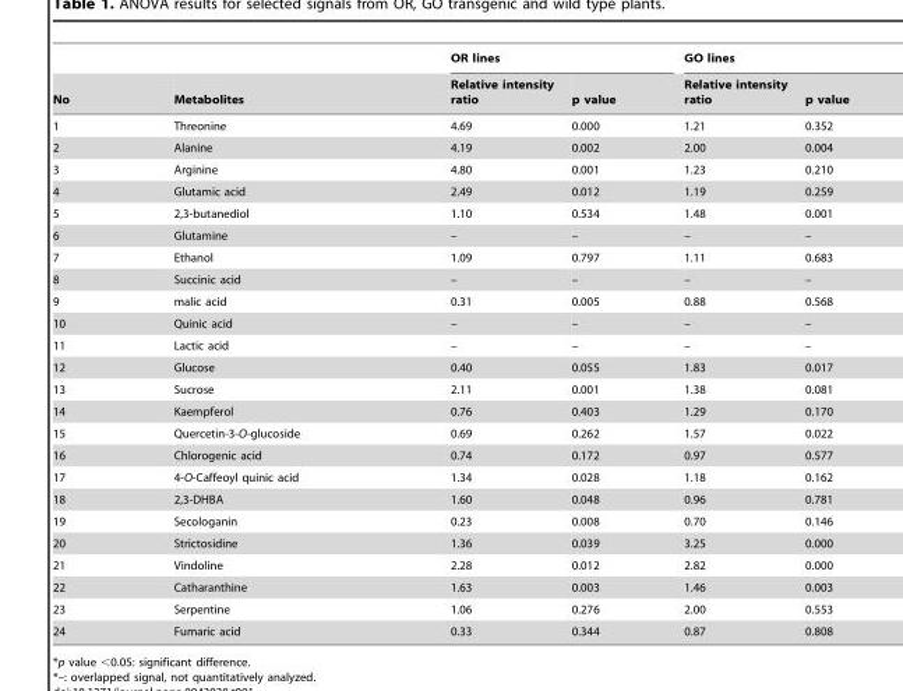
<table><thead><tr><td rowspan="2">No</td><td rowspan="2">Metabolites</td><td colspan="2">OR lines</td><td colspan="2">GO lines</td></tr><tr><td>Relative intensity ratio</td><td>p value</td><td>Relative intensity ratio</td><td>p value</td></tr></thead><tbody><tr><td>1</td><td>Threonine</td><td>4.69</td><td>0.000</td><td>1.21</td><td>0.352</td></tr><tr><td>2</td><td>Alanine</td><td>4.19</td><td>0.002</td><td>2.00</td><td>0.004</td></tr><tr><td>3</td><td>Arginine</td><td>4.80</td><td>0.001</td><td>1.23</td><td>0.210</td></tr><tr><td>4</td><td>Glutamic acid</td><td>2.49</td><td>0.012</td><td>1.19</td><td>0.259</td></tr><tr><td>5</td><td>2,3-butanediol</td><td>1.10</td><td>0.534</td><td>1.48</td><td>0.001</td></tr><tr><td>6</td><td>Glutamine</td><td>–</td><td>–</td><td>–</td><td>–</td></tr><tr><td>7</td><td>Ethanol</td><td>1.09</td><td>0.797</td><td>1.11</td><td>0.683</td></tr><tr><td>8</td><td>Succinic acid</td><td>–</td><td>–</td><td>–</td><td>–</td></tr><tr><td>9</td><td>malic acid</td><td>0.31</td><td>0.005</td><td>0.88</td><td>0.568</td></tr><tr><td>10</td><td>Quinic acid</td><td>–</td><td>–</td><td>–</td><td>–</td></tr><tr><td>11</td><td>Lactic acid</td><td>–</td><td>–</td><td>–</td><td>–</td></tr><tr><td>12</td><td>Glucose</td><td>0.40</td><td>0.055</td><td>1.83</td><td>0.017</td></tr><tr><td>13</td><td>Sucrose</td><td>2.11</td><td>0.001</td><td>1.38</td><td>0.081</td></tr><tr><td>14</td><td>Kaempferol</td><td>0.76</td><td>0.403</td><td>1.29</td><td>0.170</td></tr><tr><td>15</td><td>Quercetin-3-O-glucoside</td><td>0.69</td><td>0.262</td><td>1.57</td><td>0.022</td></tr><tr><td>16</td><td>Chlorogenic acid</td><td>0.74</td><td>0.172</td><td>0.97</td><td>0.577</td></tr><tr><td>17</td><td>4-O-Caffeoyl quinic acid</td><td>1.34</td><td>0.028</td><td>1.18</td><td>0.162</td></tr><tr><td>18</td><td>2,3-DHBA</td><td>1.60</td><td>0.048</td><td>0.96</td><td>0.781</td></tr><tr><td>19</td><td>Secologanin</td><td>0.23</td><td>0.008</td><td>0.70</td><td>0.146</td></tr><tr><td>20</td><td>Strictosidine</td><td>1.36</td><td>0.039</td><td>3.25</td><td>0.000</td></tr><tr><td>21</td><td>Vindoline</td><td>2.28</td><td>0.012</td><td>2.82</td><td>0.000</td></tr><tr><td>22</td><td>Catharanthine</td><td>1.63</td><td>0.003</td><td>1.46</td><td>0.003</td></tr><tr><td>23</td><td>Serpentine</td><td>1.06</td><td>0.276</td><td>2.00</td><td>0.553</td></tr><tr><td>24</td><td>Fumaric acid</td><td>0.33</td><td>0.344</td><td>0.87</td><td>0.808</td></tr></tbody></table>